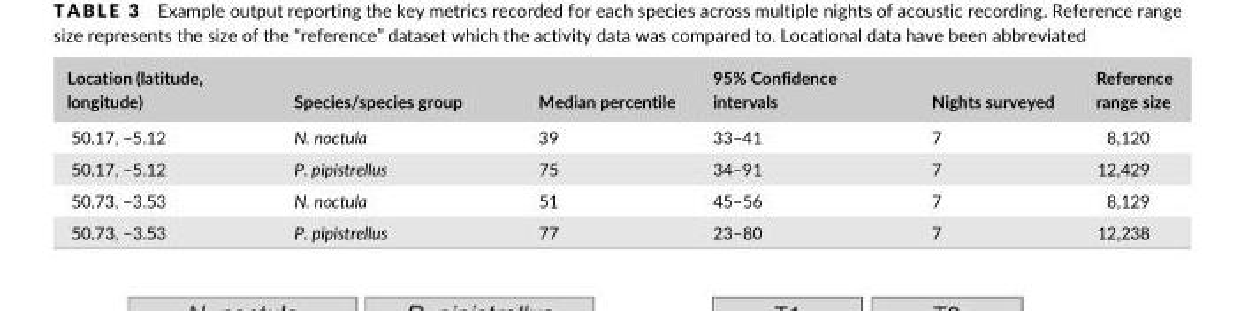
<table><thead><tr><td>Location (latitude, longitude)</td><td>Species/species group</td><td>Median percentile</td><td>95% Confidence intervals</td><td>Nights surveyed</td><td>Reference range size</td></tr></thead><tbody><tr><td>50.17, −5.12</td><td>N. noctula</td><td>39</td><td>33–41</td><td>7</td><td>8,120</td></tr><tr><td>50.17, −5.12</td><td>P. pipistrellus</td><td>75</td><td>34–91</td><td>7</td><td>12,429</td></tr><tr><td>50.73, −3.53</td><td>N. noctula</td><td>51</td><td>45–56</td><td>7</td><td>8,129</td></tr><tr><td>50.73, −3.53</td><td>P. pipistrellus</td><td>77</td><td>23–80</td><td>7</td><td>12,238</td></tr></tbody></table>